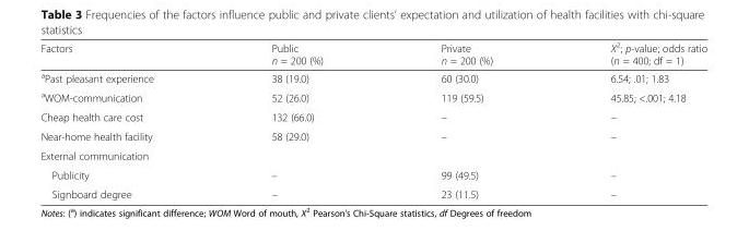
<table><thead><tr><td>Factors</td><td>Public n = 200 (%)</td><td>Private n = 200 (%)</td><td>Χ<sup>2</sup>; p-value; odds ratio (n = 400; df = 1)</td></tr></thead><tbody><tr><td><sup>a</sup>Past pleasant experience</td><td>38 (19.0)</td><td>60 (30.0)</td><td>6.54; .01; 1.83</td></tr><tr><td><sup>a</sup>WOM-communication</td><td>52 (26.0)</td><td>119 (59.5)</td><td>45.85; &lt;.001; 4.18</td></tr><tr><td>Cheap health care cost</td><td>132 (66.0)</td><td>–</td><td>–</td></tr><tr><td>Near-home health facility</td><td>58 (29.0)</td><td>–</td><td>–</td></tr><tr><td colspan="4">External communication</td></tr><tr><td>Publicity</td><td>–</td><td>99 (49.5)</td><td>–</td></tr><tr><td>Signboard degree</td><td>–</td><td>23 (11.5)</td><td>–</td></tr></tbody></table>